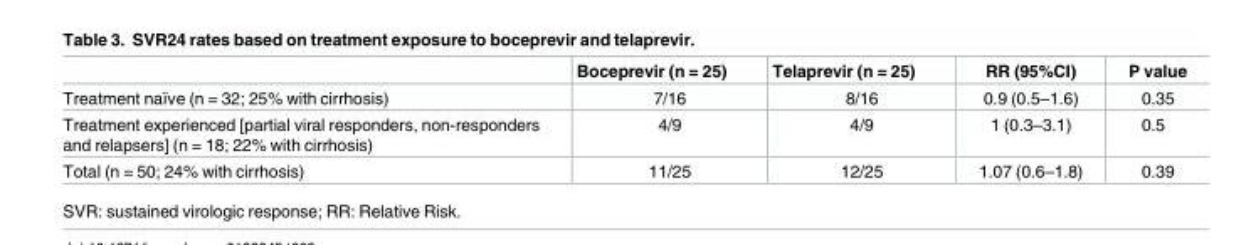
<table><thead><tr><td></td><td>Boceprevir (n = 25)</td><td>Telaprevir (n = 25)</td><td>RR (95%CI)</td><td>P value</td></tr></thead><tbody><tr><td>Treatment naïve (n = 32; 25% with cirrhosis)</td><td>7/16</td><td>8/16</td><td>0.9 (0.5–1.6)</td><td>0.35</td></tr><tr><td>Treatment experienced [partial viral responders, non-responders and relapsers] (n = 18; 22% with cirrhosis)</td><td>4/9</td><td>4/9</td><td>1 (0.3–3.1)</td><td>0.5</td></tr><tr><td>Total (n = 50; 24% with cirrhosis)</td><td>11/25</td><td>12/25</td><td>1.07 (0.6–1.8)</td><td>0.39</td></tr></tbody></table>